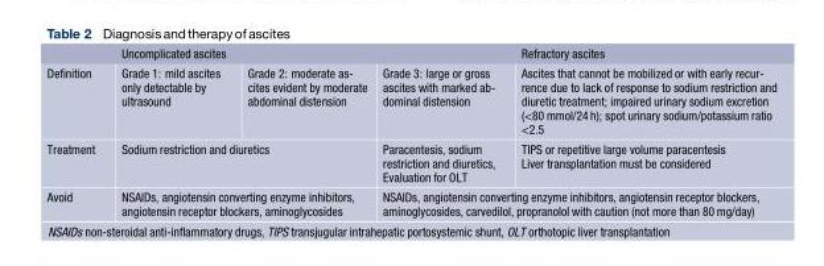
<table><thead><tr><td rowspan="2">Definition</td><td colspan="3">Uncomplicated ascites</td><td rowspan="2">Refractory ascites Ascites that cannot be mobilized or with early recur- rence due to lack of response to sodium restriction and diuretic treatment; impaired urinary sodium excretion (&lt;80 mmol/24 h); spot urinary sodium/potassium ratio &lt;2.5</td></tr><tr><td>Grade 1: mild ascites only detectable by ultrasound</td><td>Grade 2: moderate as- cites evident by moderate abdominal distension</td><td>Grade 3: large or gross ascites with marked ab- dominal distension</td></tr></thead><tbody><tr><td>Treatment</td><td colspan="2">Sodium restriction and diuretics</td><td>Paracentesis, sodium restriction and diuretics, Evaluation for OLT</td><td>TIPS or repetitive large volume paracentesis Liver transplantation must be considered</td></tr><tr><td>Avoid</td><td colspan="2">NSAIDs, angiotensin converting enzyme inhibitors, angiotensin receptor blockers, aminoglycosides</td><td colspan="2">NSAIDs, angiotensin converting enzyme inhibitors, angiotensin receptor blockers, aminoglycosides, carvedilol, propranolol with caution (not more than 80 mg/day)</td></tr></tbody></table>